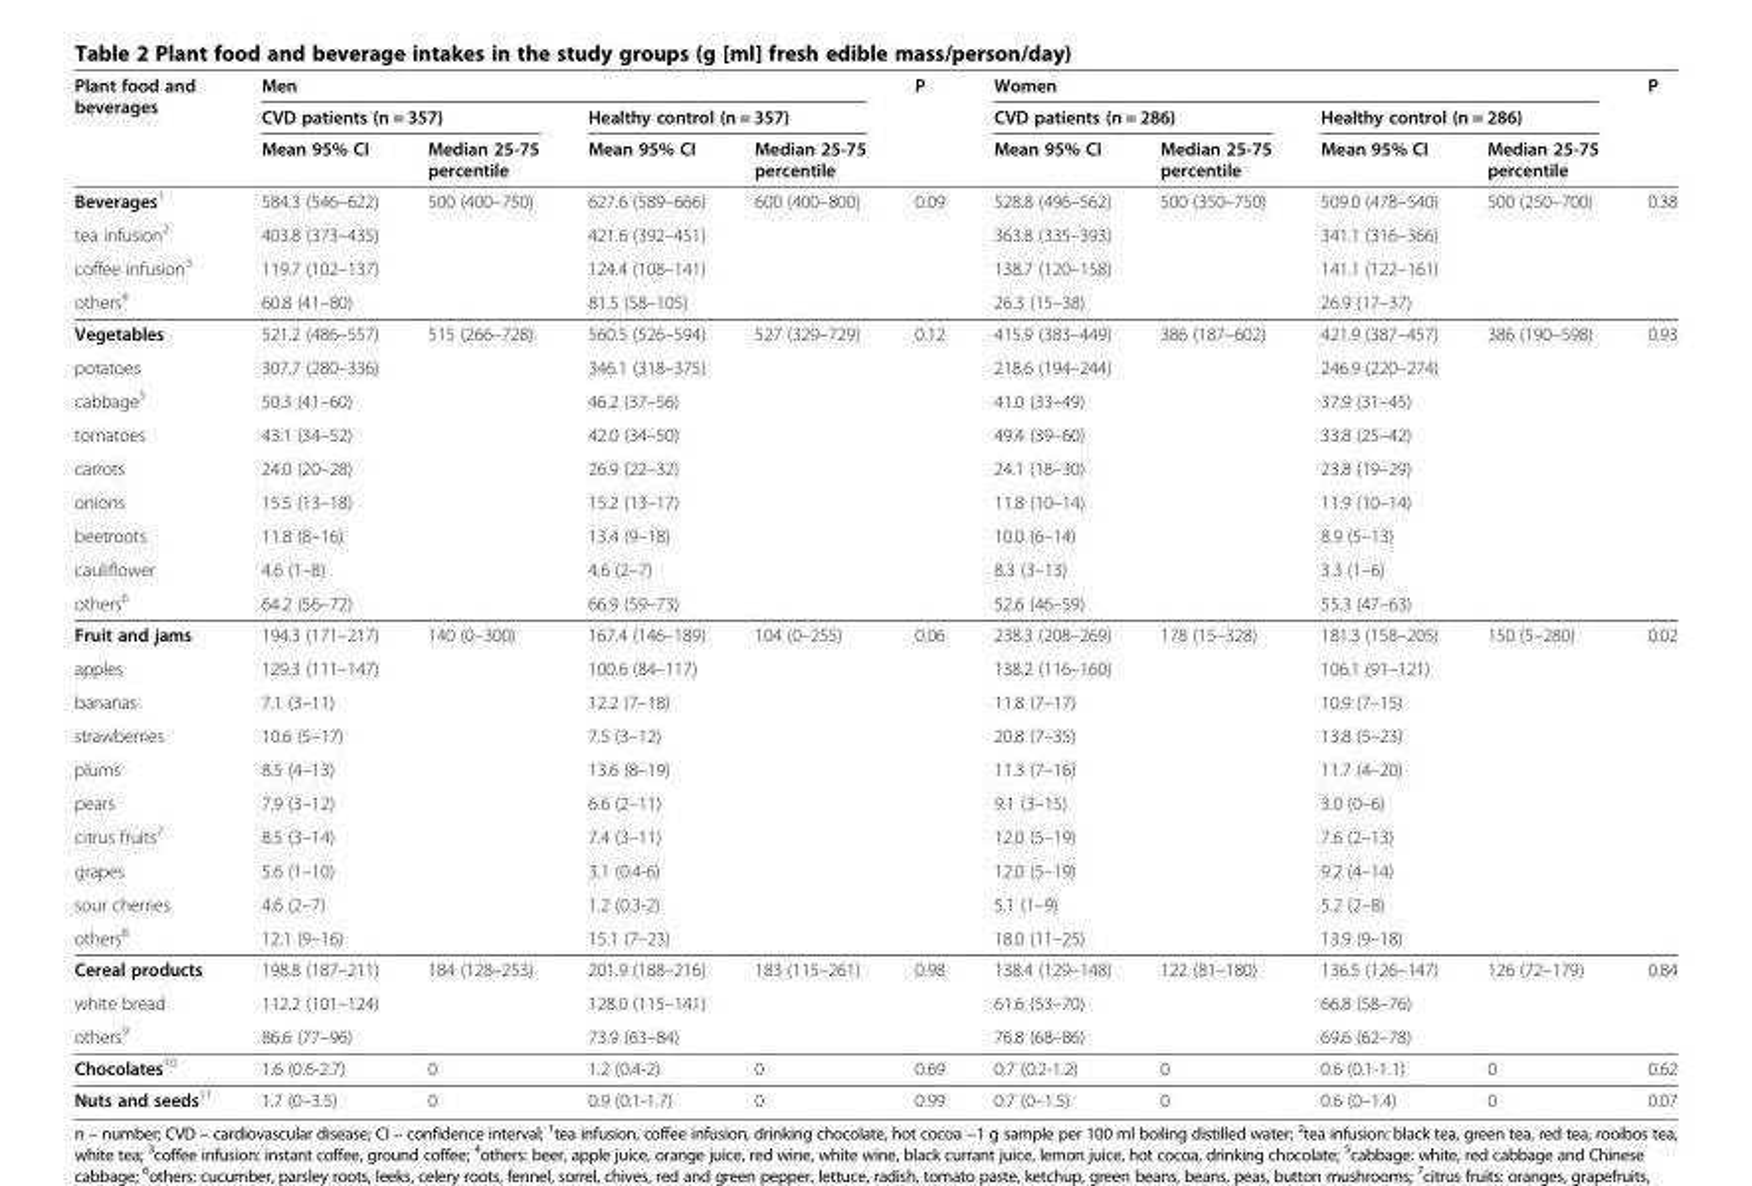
<table><thead><tr><td rowspan="3">Plant food and beverages</td><td colspan="4">Men</td><td rowspan="3">P</td><td colspan="4">Women</td><td rowspan="3">P</td></tr><tr><td colspan="2">CVD patients (n = 357)</td><td colspan="2">Healthy control (n = 357)</td><td colspan="2">CVD patients (n = 286)</td><td colspan="2">Healthy control (n = 286)</td></tr><tr><td>Mean 95% CI</td><td>Median 25-75 percentile</td><td>Mean 95% CI</td><td>Median 25-75 percentile</td><td>Mean 95% CI</td><td>Median 25-75 percentile</td><td>Mean 95% CI</td><td>Median 25-75 percentile</td></tr></thead><tbody><tr><td>Beverages<sup>1</sup></td><td>584.3 (546–622)</td><td>500 (400–750)</td><td>627.6 (589–666)</td><td>600 (400–800)</td><td>0.09</td><td>528.8 (496–562)</td><td>500 (350–750)</td><td>509.0 (478–540)</td><td>500 (250–700)</td><td>0.38</td></tr><tr><td>tea infusion<sup>2</sup></td><td>403.8 (373–435)</td><td></td><td>421.6 (392–451)</td><td></td><td></td><td>363.8 (335–393)</td><td></td><td>341.1 (316–366)</td><td></td><td></td></tr><tr><td>coffee infusion<sup>3</sup></td><td>119.7 (102–137)</td><td></td><td>124.4 (108–141)</td><td></td><td></td><td>138.7 (120–158)</td><td></td><td>141.1 (122–161)</td><td></td><td></td></tr><tr><td>others<sup>4</sup></td><td>60.8 (41–80)</td><td></td><td>81.5 (58–105)</td><td></td><td></td><td>26.3 (15–38)</td><td></td><td>26.9 (17–37)</td><td></td><td></td></tr><tr><td>Vegetables</td><td>521.2 (486–557)</td><td>515 (266–728)</td><td>560.5 (526–594)</td><td>527 (329–729)</td><td>0.12</td><td>415.9 (383–449)</td><td>386 (187–602)</td><td>421.9 (387–457)</td><td>386 (190–598)</td><td>0.93</td></tr><tr><td>potatoes</td><td>307.7 (280–336)</td><td></td><td>346.1 (318–375)</td><td></td><td></td><td>218.6 (194–244)</td><td></td><td>246.9 (220–274)</td><td></td><td></td></tr><tr><td>cabbage<sup>5</sup></td><td>50.3 (41–60)</td><td></td><td>46.2 (37–56)</td><td></td><td></td><td>41.0 (33–49)</td><td></td><td>37.9 (31–45)</td><td></td><td></td></tr><tr><td>tomatoes</td><td>43.1 (34–52)</td><td></td><td>42.0 (34–50)</td><td></td><td></td><td>49.4 (39–60)</td><td></td><td>33.8 (25–42)</td><td></td><td></td></tr><tr><td>carrots</td><td>24.0 (20–28)</td><td></td><td>26.9 (22–32)</td><td></td><td></td><td>24.1 (18–30)</td><td></td><td>23.8 (19–29)</td><td></td><td></td></tr><tr><td>onions</td><td>15.5 (13–18)</td><td></td><td>15.2 (13–17)</td><td></td><td></td><td>11.8 (10–14)</td><td></td><td>11.9 (10–14)</td><td></td><td></td></tr><tr><td>beetroots</td><td>11.8 (8–16)</td><td></td><td>13.4 (9–18)</td><td></td><td></td><td>10.0 (6–14)</td><td></td><td>8.9 (5–13)</td><td></td><td></td></tr><tr><td>cauliflower</td><td>4.6 (1–8)</td><td></td><td>4.6 (2–7)</td><td></td><td></td><td>8.3 (3–13)</td><td></td><td>3.3 (1–6)</td><td></td><td></td></tr><tr><td>others<sup>6</sup></td><td>64.2 (56–72)</td><td></td><td>66.9 (59–73)</td><td></td><td></td><td>52.6 (46–59)</td><td></td><td>55.3 (47–63)</td><td></td><td></td></tr><tr><td>Fruit and jams</td><td>194.3 (171–217)</td><td>140 (0–300)</td><td>167.4 (146–189)</td><td>104 (0–255)</td><td>0.06</td><td>238.3 (208–269)</td><td>178 (15–328)</td><td>181.3 (158–205)</td><td>150 (5–280)</td><td>0.02</td></tr><tr><td>apples</td><td>129.3 (111–147)</td><td></td><td>100.6 (84–117)</td><td></td><td></td><td>138.2 (116–160)</td><td></td><td>106.1 (91–121)</td><td></td><td></td></tr><tr><td>bananas</td><td>7.1 (3–11)</td><td></td><td>12.2 (7–18)</td><td></td><td></td><td>11.8 (7–17)</td><td></td><td>10.9 (7–15)</td><td></td><td></td></tr><tr><td>strawberries</td><td>10.6 (5–17)</td><td></td><td>7.5 (3–12)</td><td></td><td></td><td>20.8 (7–35)</td><td></td><td>13.8 (5–23)</td><td></td><td></td></tr><tr><td>plums</td><td>8.5 (4–13)</td><td></td><td>13.6 (8–19)</td><td></td><td></td><td>11.3 (7–16)</td><td></td><td>11.7 (4–20)</td><td></td><td></td></tr><tr><td>pears</td><td>7.9 (3–12)</td><td></td><td>6.6 (2–11)</td><td></td><td></td><td>9.1 (3–15)</td><td></td><td>3.0 (0–6)</td><td></td><td></td></tr><tr><td>citrus fruits<sup>7</sup></td><td>8.5 (3–14)</td><td></td><td>7.4 (3–11)</td><td></td><td></td><td>12.0 (5–19)</td><td></td><td>7.6 (2–13)</td><td></td><td></td></tr><tr><td>grapes</td><td>5.6 (1–10)</td><td></td><td>3.1 (0.4-6)</td><td></td><td></td><td>12.0 (5–19)</td><td></td><td>9.2 (4–14)</td><td></td><td></td></tr><tr><td>sour cherries</td><td>4.6 (2–7)</td><td></td><td>1.2 (0.3-2)</td><td></td><td></td><td>5.1 (1–9)</td><td></td><td>5.2 (2–8)</td><td></td><td></td></tr><tr><td>others<sup>8</sup></td><td>12.1 (9–16)</td><td></td><td>15.1 (7–23)</td><td></td><td></td><td>18.0 (11–25)</td><td></td><td>13.9 (9–18)</td><td></td><td></td></tr><tr><td>Cereal products</td><td>198.8 (187–211)</td><td>184 (128–253)</td><td>201.9 (188–216)</td><td>183 (115–261)</td><td>0.98</td><td>138.4 (129–148)</td><td>122 (81–180)</td><td>136.5 (126–147)</td><td>126 (72–179)</td><td>0.84</td></tr><tr><td>white bread</td><td>112.2 (101–124)</td><td></td><td>128.0 (115–141)</td><td></td><td></td><td>61.6 (53–70)</td><td></td><td>66.8 (58–76)</td><td></td><td></td></tr><tr><td>others<sup>9</sup></td><td>86.6 (77–96)</td><td></td><td>73.9 (63–84)</td><td></td><td></td><td>76.8 (68–86)</td><td></td><td>69.6 (62–78)</td><td></td><td></td></tr><tr><td>Chocolates<sup>10</sup></td><td>1.6 (0.6-2.7)</td><td>0</td><td>1.2 (0.4-2)</td><td>0</td><td>0.69</td><td>0.7 (0.2-1.2)</td><td>0</td><td>0.6 (0.1-1.1)</td><td>0</td><td>0.62</td></tr><tr><td>Nuts and seeds<sup>11</sup></td><td>1.7 (0–3.5)</td><td>0</td><td>0.9 (0.1-1.7)</td><td>0</td><td>0.99</td><td>0.7 (0–1.5)</td><td>0</td><td>0.6 (0–1.4)</td><td>0</td><td>0.07</td></tr></tbody></table>